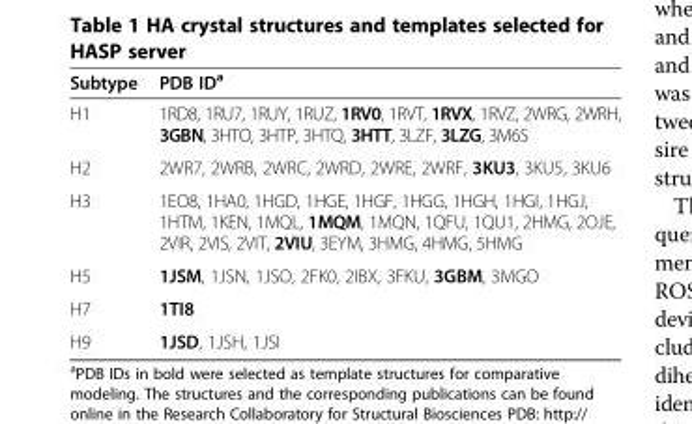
<table><thead><tr><td>Subtype</td><td>PDB ID<sup>a</sup></td></tr></thead><tbody><tr><td>H1</td><td>1RD8, 1RU7, 1RUY, 1RUZ, 1RV0, 1RVT, 1RVX, 1RVZ, 2WRG, 2WRH, 3GBN, 3HTO, 3HTP, 3HTQ, 3HTT, 3LZF, 3LZG, 3M6S</td></tr><tr><td>H2</td><td>2WR7, 2WRB, 2WRC, 2WRD, 2WRE, 2WRF, 3KU3, 3KU5, 3KU6</td></tr><tr><td>H3</td><td>1EO8, 1HA0, 1HGD, 1HGE, 1HGF, 1HGG, 1HGH, 1HGI, 1HGJ, 1HTM, 1KEN, 1MQL, 1MQM, 1MQN, 1QFU, 1QU1, 2HMG, 2OJE, 2VIR, 2VIS, 2VIT, 2VIU, 3EYM, 3HMG, 4HMG, 5HMG</td></tr><tr><td>H5</td><td>1JSM, 1JSN, 1JSO, 2FK0, 2IBX, 3FKU, 3GBM, 3MGO</td></tr><tr><td>H7</td><td>1TI8</td></tr><tr><td>H9</td><td>1JSD, 1JSH, 1JSI</td></tr></tbody></table>